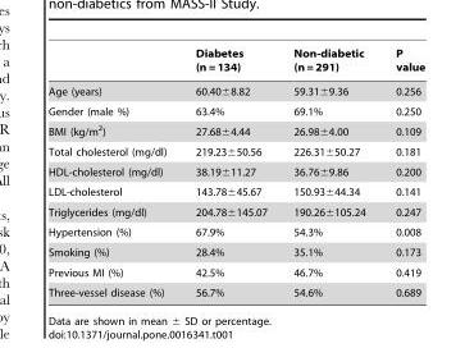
<table><thead><tr><td></td><td>Diabetes (n = 134)</td><td>Non-diabetic (n = 291)</td><td>P value</td></tr></thead><tbody><tr><td>Age (years)</td><td>60.40±8.82</td><td>59.31±9.36</td><td>0.256</td></tr><tr><td>Gender (male %)</td><td>63.4%</td><td>69.1%</td><td>0.250</td></tr><tr><td>BMI (kg/m<sup>2</sup>)</td><td>27.68±4.44</td><td>26.98±4.00</td><td>0.109</td></tr><tr><td>Total cholesterol (mg/dl)</td><td>219.23±50.56</td><td>226.31±50.27</td><td>0.181</td></tr><tr><td>HDL-cholesterol (mg/dl)</td><td>38.19±11.27</td><td>36.76±9.86</td><td>0.200</td></tr><tr><td>LDL-cholesterol</td><td>143.78±45.67</td><td>150.93±44.34</td><td>0.141</td></tr><tr><td>Triglycerides (mg/dl)</td><td>204.78±145.07</td><td>190.26±105.24</td><td>0.247</td></tr><tr><td>Hypertension (%)</td><td>67.9%</td><td>54.3%</td><td>0.008</td></tr><tr><td>Smoking (%)</td><td>28.4%</td><td>35.1%</td><td>0.173</td></tr><tr><td>Previous MI (%)</td><td>42.5%</td><td>46.7%</td><td>0.419</td></tr><tr><td>Three-vessel disease (%)</td><td>56.7%</td><td>54.6%</td><td>0.689</td></tr></tbody></table>